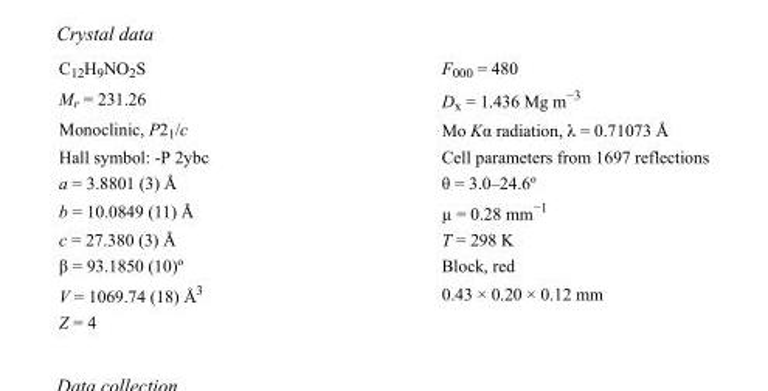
<table><tbody><tr><td>C<sub>12</sub>H<sub>9</sub>NO<sub>2</sub>S</td><td>F000 = 480</td></tr><tr><td>M<sub>r</sub> = 231.26</td><td>D<sub>x</sub> = 1.436 Mg m<sup>−3</sup></td></tr><tr><td>Monoclinic, P2<sub>1</sub>/c</td><td>Mo Kα radiation, λ = 0.71073 Å</td></tr><tr><td>Hall symbol: -P 2ybc</td><td>Cell parameters from 1697 reflections</td></tr><tr><td>a = 3.8801 (3) Å</td><td>θ = 3.0–24.6º</td></tr><tr><td>b = 10.0849 (11) Å</td><td>µ = 0.28 mm<sup>−1</sup></td></tr><tr><td>c = 27.380 (3) Å</td><td>T = 298 K</td></tr><tr><td>β = 93.1850 (10)º</td><td>Block, red</td></tr><tr><td>V = 1069.74 (18) Å<sup>3</sup></td><td>0.43 × 0.20 × 0.12 mm</td></tr><tr><td>Z = 4</td><td></td></tr></tbody></table>